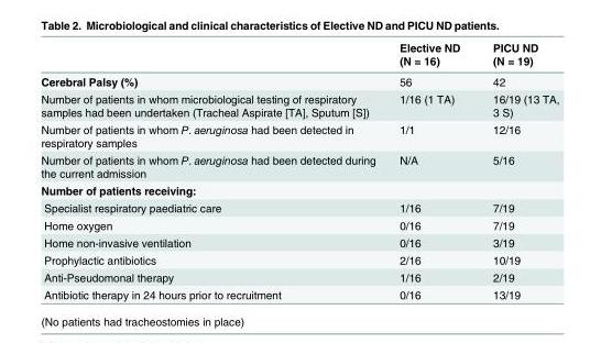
<table><thead><tr><td></td><td>Elective ND (N = 16)</td><td>PICU ND (N = 19)</td></tr></thead><tbody><tr><td>Cerebral Palsy (%)</td><td>56</td><td>42</td></tr><tr><td>Number of patients in whom microbiological testing of respiratory samples had been undertaken (Tracheal Aspirate [TA], Sputum [S])</td><td>1/16 (1 TA)</td><td>16/19 (13 TA, 3 S)</td></tr><tr><td>Number of patients in whom P. aeruginosa had been detected in respiratory samples</td><td>1/1</td><td>12/16</td></tr><tr><td>Number of patients in whom P. aeruginosa had been detected during the current admission</td><td>N/A</td><td>5/16</td></tr><tr><td colspan="3">Number of patients receiving:</td></tr><tr><td>Specialist respiratory paediatric care</td><td>1/16</td><td>7/19</td></tr><tr><td>Home oxygen</td><td>0/16</td><td>7/19</td></tr><tr><td>Home non-invasive ventilation</td><td>0/16</td><td>3/19</td></tr><tr><td>Prophylactic antibiotics</td><td>2/16</td><td>10/19</td></tr><tr><td>Anti-Pseudomonal therapy</td><td>1/16</td><td>2/19</td></tr><tr><td>Antibiotic therapy in 24 hours prior to recruitment</td><td>0/16</td><td>13/19</td></tr></tbody></table>